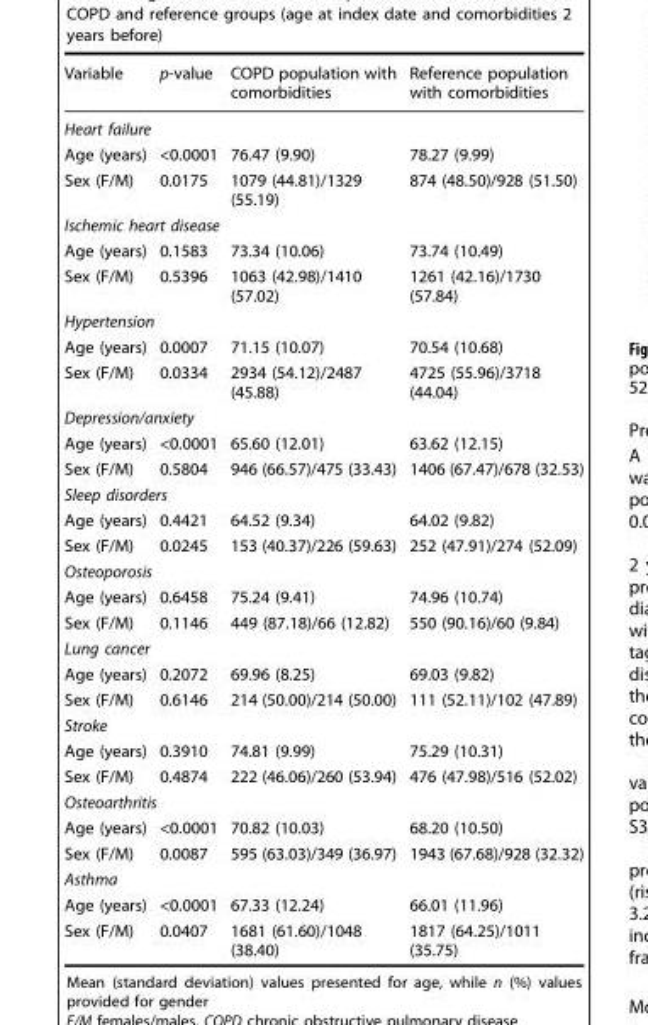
<table><thead><tr><td>Variable</td><td>p-value</td><td>COPD population with comorbidities</td><td>Reference population with comorbidities</td></tr></thead><tbody><tr><td colspan="4">Heart failure</td></tr><tr><td>Age (years)</td><td>&lt;0.0001</td><td>76.47 (9.90)</td><td>78.27 (9.99)</td></tr><tr><td>Sex (F/M)</td><td>0.0175</td><td>1079 (44.81)/1329 (55.19)</td><td>874 (48.50)/928 (51.50)</td></tr><tr><td colspan="4">Ischemic heart disease</td></tr><tr><td>Age (years)</td><td>0.1583</td><td>73.34 (10.06)</td><td>73.74 (10.49)</td></tr><tr><td>Sex (F/M)</td><td>0.5396</td><td>1063 (42.98)/1410 (57.02)</td><td>1261 (42.16)/1730 (57.84)</td></tr><tr><td colspan="4">Hypertension</td></tr><tr><td>Age (years)</td><td>0.0007</td><td>71.15 (10.07)</td><td>70.54 (10.68)</td></tr><tr><td>Sex (F/M)</td><td>0.0334</td><td>2934 (54.12)/2487 (45.88)</td><td>4725 (55.96)/3718 (44.04)</td></tr><tr><td colspan="4">Depression/anxiety</td></tr><tr><td>Age (years)</td><td>&lt;0.0001</td><td>65.60 (12.01)</td><td>63.62 (12.15)</td></tr><tr><td>Sex (F/M)</td><td>0.5804</td><td>946 (66.57)/475 (33.43)</td><td>1406 (67.47)/678 (32.53)</td></tr><tr><td colspan="4">Sleep disorders</td></tr><tr><td>Age (years)</td><td>0.4421</td><td>64.52 (9.34)</td><td>64.02 (9.82)</td></tr><tr><td>Sex (F/M)</td><td>0.0245</td><td>153 (40.37)/226 (59.63)</td><td>252 (47.91)/274 (52.09)</td></tr><tr><td colspan="4">Osteoporosis</td></tr><tr><td>Age (years)</td><td>0.6458</td><td>75.24 (9.41)</td><td>74.96 (10.74)</td></tr><tr><td>Sex (F/M)</td><td>0.1146</td><td>449 (87.18)/66 (12.82)</td><td>550 (90.16)/60 (9.84)</td></tr><tr><td colspan="4">Lung cancer</td></tr><tr><td>Age (years)</td><td>0.2072</td><td>69.96 (8.25)</td><td>69.03 (9.82)</td></tr><tr><td>Sex (F/M)</td><td>0.6146</td><td>214 (50.00)/214 (50.00)</td><td>111 (52.11)/102 (47.89)</td></tr><tr><td colspan="4">Stroke</td></tr><tr><td>Age (years)</td><td>0.3910</td><td>74.81 (9.99)</td><td>75.29 (10.31)</td></tr><tr><td>Sex (F/M)</td><td>0.4874</td><td>222 (46.06)/260 (53.94)</td><td>476 (47.98)/516 (52.02)</td></tr><tr><td colspan="4">Osteoarthritis</td></tr><tr><td>Age (years)</td><td>&lt;0.0001</td><td>70.82 (10.03)</td><td>68.20 (10.50)</td></tr><tr><td>Sex (F/M)</td><td>0.0087</td><td>595 (63.03)/349 (36.97)</td><td>1943 (67.68)/928 (32.32)</td></tr><tr><td colspan="4">Asthma</td></tr><tr><td>Age (years)</td><td>&lt;0.0001</td><td>67.33 (12.24)</td><td>66.01 (11.96)</td></tr><tr><td>Sex (F/M)</td><td>0.0407</td><td>1681 (61.60)/1048 (38.40)</td><td>1817 (64.25)/1011 (35.75)</td></tr></tbody></table>